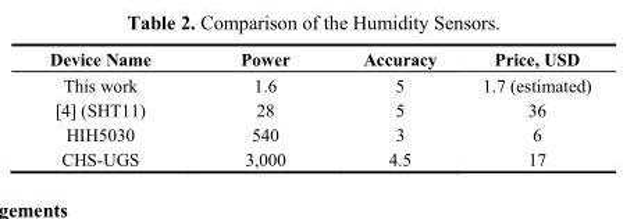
<table><thead><tr><td>Device Name</td><td>Power</td><td>Accuracy</td><td>Price, USD</td></tr></thead><tbody><tr><td>This work</td><td>1.6</td><td>5</td><td>1.7 (estimated)</td></tr><tr><td>[4] (SHT11)</td><td>28</td><td>5</td><td>36</td></tr><tr><td>HIH5030</td><td>540</td><td>3</td><td>6</td></tr><tr><td>CHS-UGS</td><td>3,000</td><td>4.5</td><td>17</td></tr></tbody></table>